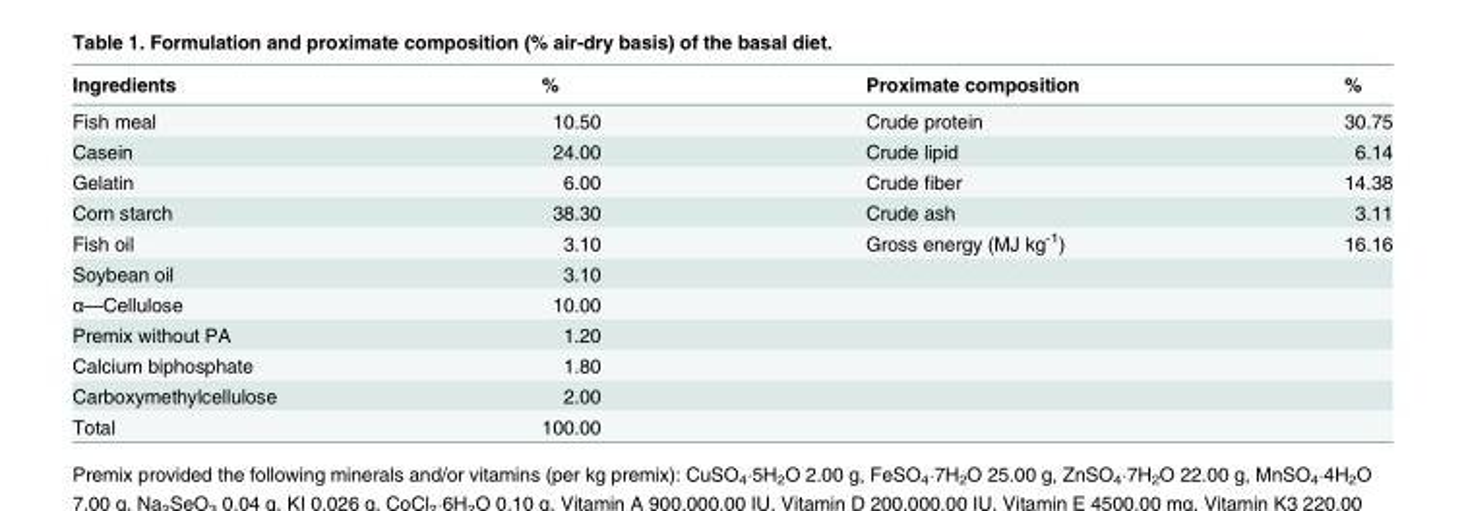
<table><thead><tr><td>Ingredients</td><td>%</td><td>Proximate composition</td><td>%</td></tr></thead><tbody><tr><td>Fish meal</td><td>10.50</td><td>Crude protein</td><td>30.75</td></tr><tr><td>Casein</td><td>24.00</td><td>Crude lipid</td><td>6.14</td></tr><tr><td>Gelatin</td><td>6.00</td><td>Crude fiber</td><td>14.38</td></tr><tr><td>Corn starch</td><td>38.30</td><td>Crude ash</td><td>3.11</td></tr><tr><td>Fish oil</td><td>3.10</td><td>Gross energy (MJ kg<sup>-1</sup>)</td><td>16.16</td></tr><tr><td>Soybean oil</td><td>3.10</td><td></td><td></td></tr><tr><td>α—Cellulose</td><td>10.00</td><td></td><td></td></tr><tr><td>Premix without PA</td><td>1.20</td><td></td><td></td></tr><tr><td>Calcium biphosphate</td><td>1.80</td><td></td><td></td></tr><tr><td>Carboxymethylcellulose</td><td>2.00</td><td></td><td></td></tr><tr><td>Total</td><td>100.00</td><td></td><td></td></tr></tbody></table>